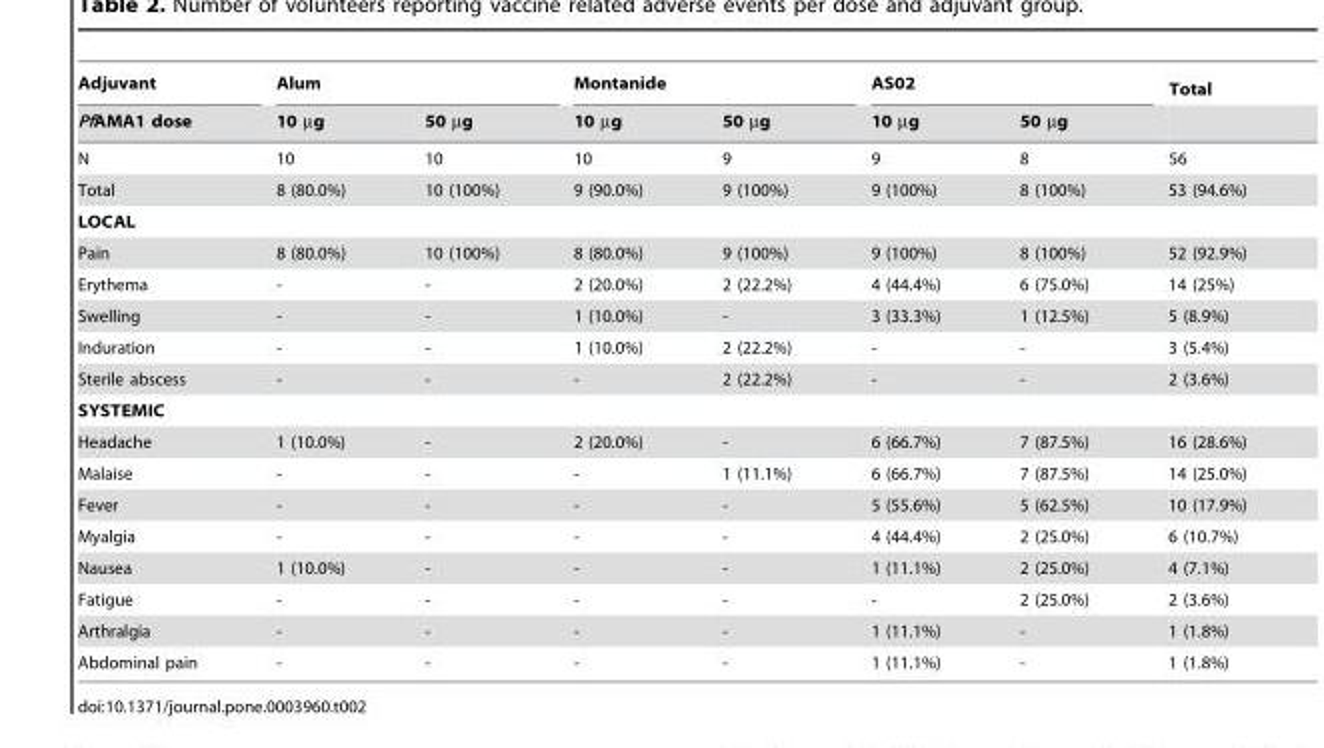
<table><thead><tr><td rowspan="2">Adjuvant PfAMA1 dose</td><td colspan="2">Alum</td><td colspan="2">Montanide</td><td colspan="2">AS02</td><td rowspan="2">Total</td></tr><tr><td>10 µg</td><td>50 µg</td><td>10 µg</td><td>50 µg</td><td>10 µg</td><td>50 µg</td></tr></thead><tbody><tr><td>N</td><td>10</td><td>10</td><td>10</td><td>9</td><td>9</td><td>8</td><td>56</td></tr><tr><td>Total</td><td>8 (80.0%)</td><td>10 (100%)</td><td>9 (90.0%)</td><td>9 (100%)</td><td>9 (100%)</td><td>8 (100%)</td><td>53 (94.6%)</td></tr><tr><td colspan="8">LOCAL</td></tr><tr><td>Pain</td><td>8 (80.0%)</td><td>10 (100%)</td><td>8 (80.0%)</td><td>9 (100%)</td><td>9 (100%)</td><td>8 (100%)</td><td>52 (92.9%)</td></tr><tr><td>Erythema</td><td>-</td><td>-</td><td>2 (20.0%)</td><td>2 (22.2%)</td><td>4 (44.4%)</td><td>6 (75.0%)</td><td>14 (25%)</td></tr><tr><td>Swelling</td><td>-</td><td>-</td><td>1 (10.0%)</td><td>-</td><td>3 (33.3%)</td><td>1 (12.5%)</td><td>5 (8.9%)</td></tr><tr><td>Induration</td><td>-</td><td>-</td><td>1 (10.0%)</td><td>2 (22.2%)</td><td>-</td><td>-</td><td>3 (5.4%)</td></tr><tr><td>Sterile abscess</td><td>-</td><td>-</td><td>-</td><td>2 (22.2%)</td><td>-</td><td>-</td><td>2 (3.6%)</td></tr><tr><td colspan="8">SYSTEMIC</td></tr><tr><td>Headache</td><td>1 (10.0%)</td><td>-</td><td>2 (20.0%)</td><td>-</td><td>6 (66.7%)</td><td>7 (87.5%)</td><td>16 (28.6%)</td></tr><tr><td>Malaise</td><td>-</td><td>-</td><td>-</td><td>1 (11.1%)</td><td>6 (66.7%)</td><td>7 (87.5%)</td><td>14 (25.0%)</td></tr><tr><td>Fever</td><td>-</td><td>-</td><td>-</td><td>-</td><td>5 (55.6%)</td><td>5 (62.5%)</td><td>10 (17.9%)</td></tr><tr><td>Myalgia</td><td>-</td><td>-</td><td>-</td><td>-</td><td>4 (44.4%)</td><td>2 (25.0%)</td><td>6 (10.7%)</td></tr><tr><td>Nausea</td><td>1 (10.0%)</td><td>-</td><td>-</td><td>-</td><td>1 (11.1%)</td><td>2 (25.0%)</td><td>4 (7.1%)</td></tr><tr><td>Fatigue</td><td>-</td><td>-</td><td>-</td><td>-</td><td>-</td><td>2 (25.0%)</td><td>2 (3.6%)</td></tr><tr><td>Arthralgia</td><td>-</td><td>-</td><td>-</td><td>-</td><td>1 (11.1%)</td><td>-</td><td>1 (1.8%)</td></tr><tr><td>Abdominal pain</td><td>-</td><td>-</td><td>-</td><td>-</td><td>1 (11.1%)</td><td>-</td><td>1 (1.8%)</td></tr></tbody></table>